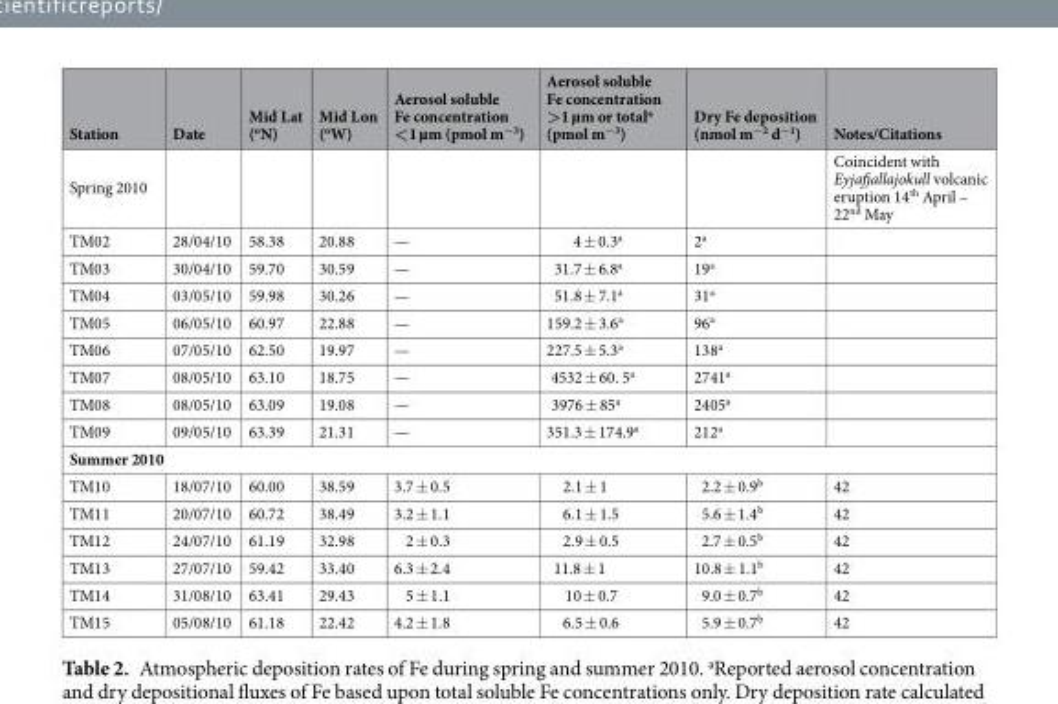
<table><thead><tr><td>Station</td><td>Date</td><td>Mid Lat (<sup>o</sup>N)</td><td>Mid Lon (<sup>o</sup>W)</td><td>Aerosol soluble Fe concentration &lt;1 µm (pmol m<sup>−3</sup>)</td><td>Aerosol soluble Fe concentration &gt;1 µm or total<sup>a</sup> (pmol m<sup>−3</sup>)</td><td>Dry Fe deposition (nmol m<sup>−2</sup> d<sup>−1</sup>)</td><td>Notes/Citations</td></tr></thead><tbody><tr><td>Spring 2010</td><td></td><td></td><td></td><td></td><td></td><td></td><td>Coincident with Eyjafjallajokull volcanic eruption 14<sup>th</sup> April – 22<sup>nd</sup> May</td></tr><tr><td>TM02</td><td>28/04/10</td><td>58.38</td><td>20.88</td><td>—</td><td>4 ± 0.3<sup>a</sup></td><td>2<sup>a</sup></td><td></td></tr><tr><td>TM03</td><td>30/04/10</td><td>59.70</td><td>30.59</td><td>—</td><td>31.7 ± 6.8<sup>a</sup></td><td>19<sup>a</sup></td><td></td></tr><tr><td>TM04</td><td>03/05/10</td><td>59.98</td><td>30.26</td><td>—</td><td>51.8 ± 7.1<sup>a</sup></td><td>31<sup>a</sup></td><td></td></tr><tr><td>TM05</td><td>06/05/10</td><td>60.97</td><td>22.88</td><td>—</td><td>159.2 ± 3.6<sup>a</sup></td><td>96<sup>a</sup></td><td></td></tr><tr><td>TM06</td><td>07/05/10</td><td>62.50</td><td>19.97</td><td>—</td><td>227.5 ± 5.3<sup>a</sup></td><td>138<sup>a</sup></td><td></td></tr><tr><td>TM07</td><td>08/05/10</td><td>63.10</td><td>18.75</td><td>—</td><td>4532 ± 60. 5<sup>a</sup></td><td>2741<sup>a</sup></td><td></td></tr><tr><td>TM08</td><td>08/05/10</td><td>63.09</td><td>19.08</td><td>—</td><td>3976 ± 85<sup>a</sup></td><td>2405<sup>a</sup></td><td></td></tr><tr><td>TM09</td><td>09/05/10</td><td>63.39</td><td>21.31</td><td>—</td><td>351.3 ± 174.9<sup>a</sup></td><td>212<sup>a</sup></td><td></td></tr><tr><td colspan="8">Summer 2010</td></tr><tr><td>TM10</td><td>18/07/10</td><td>60.00</td><td>38.59</td><td>3.7 ± 0.5</td><td>2.1 ± 1</td><td>2.2 ± 0.9<sup>b</sup></td><td>42</td></tr><tr><td>TM11</td><td>20/07/10</td><td>60.72</td><td>38.49</td><td>3.2 ± 1.1</td><td>6.1 ± 1.5</td><td>5.6 ± 1.4<sup>b</sup></td><td>42</td></tr><tr><td>TM12</td><td>24/07/10</td><td>61.19</td><td>32.98</td><td>2 ± 0.3</td><td>2.9 ± 0.5</td><td>2.7 ± 0.5<sup>b</sup></td><td>42</td></tr><tr><td>TM13</td><td>27/07/10</td><td>59.42</td><td>33.40</td><td>6.3 ± 2.4</td><td>11.8 ± 1</td><td>10.8 ± 1.1<sup>b</sup></td><td>42</td></tr><tr><td>TM14</td><td>31/08/10</td><td>63.41</td><td>29.43</td><td>5 ± 1.1</td><td>10 ± 0.7</td><td>9.0 ± 0.7<sup>b</sup></td><td>42</td></tr><tr><td>TM15</td><td>05/08/10</td><td>61.18</td><td>22.42</td><td>4.2 ± 1.8</td><td>6.5 ± 0.6</td><td>5.9 ± 0.7<sup>b</sup></td><td>42</td></tr></tbody></table>